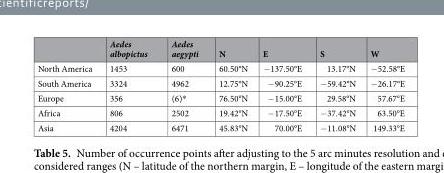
<table><thead><tr><td></td><td>Aedes albopictus</td><td>Aedes aegypti</td><td>N</td><td>E</td><td>S</td><td>W</td></tr></thead><tbody><tr><td>North America</td><td>1453</td><td>600</td><td>60.50°N</td><td>−137.50°E</td><td>13.17°N</td><td>−52.58°E</td></tr><tr><td>South America</td><td>3324</td><td>4962</td><td>12.75°N</td><td>−90.25°E</td><td>−59.42°N</td><td>−26.17°E</td></tr><tr><td>Europe</td><td>356</td><td>(6)*</td><td>76.50°N</td><td>−15.00°E</td><td>29.58°N</td><td>57.67°E</td></tr><tr><td>Africa</td><td>806</td><td>2502</td><td>19.42°N</td><td>−17.50°E</td><td>−37.42°N</td><td>63.50°E</td></tr><tr><td>Asia</td><td>4204</td><td>6471</td><td>45.83°N</td><td>70.00°E</td><td>−11.08°N</td><td>149.33°E</td></tr></tbody></table>